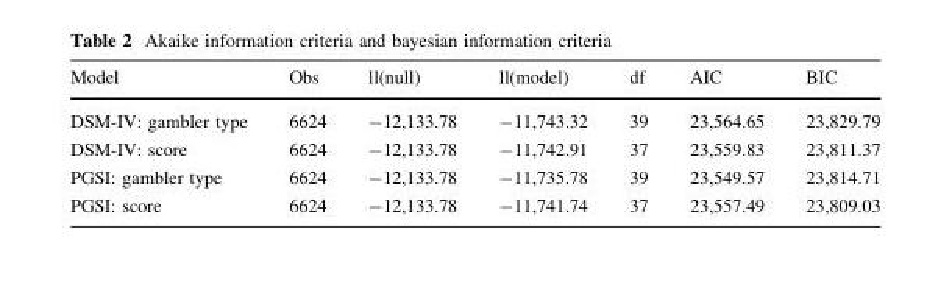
<table><thead><tr><td>Model</td><td>Obs</td><td>ll(null)</td><td>ll(model)</td><td>df</td><td>AIC</td><td>BIC</td></tr></thead><tbody><tr><td>DSM-IV: gambler type</td><td>6624</td><td>-12,133.78</td><td>-11,743.32</td><td>39</td><td>23,564.65</td><td>23,829.79</td></tr><tr><td>DSM-IV: score</td><td>6624</td><td>-12,133.78</td><td>-11,742.91</td><td>37</td><td>23,559.83</td><td>23,811.37</td></tr><tr><td>PGSI: gambler type</td><td>6624</td><td>-12,133.78</td><td>-11,735.78</td><td>39</td><td>23,549.57</td><td>23,814.71</td></tr><tr><td>PGSI: score</td><td>6624</td><td>-12,133.78</td><td>-11,741.74</td><td>37</td><td>23,557.49</td><td>23,809.03</td></tr></tbody></table>